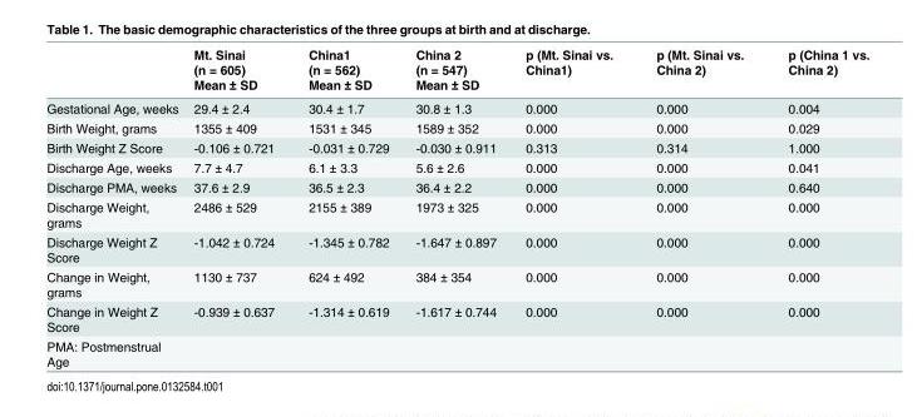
<table><thead><tr><td rowspan="2"></td><td rowspan="2">Mt. Sinai (n = 605) Mean ± SD</td><td rowspan="2">China1 (n = 562) Mean ± SD</td><td rowspan="2">China 2 (n = 547) Mean ± SD</td><td rowspan="2">p (Mt. Sinai vs. China1)</td><td rowspan="2">p (Mt. Sinai vs. China 2)</td><td rowspan="2">p (China 1 vs. China 2)</td></tr><tr></tr></thead><tbody><tr><td>Gestational Age, weeks</td><td>29.4 ± 2.4</td><td>30.4 ± 1.7</td><td>30.8 ± 1.3</td><td>0.000</td><td>0.000</td><td>0.004</td></tr><tr><td>Birth Weight, grams</td><td>1355 ± 409</td><td>1531 ± 345</td><td>1589 ± 352</td><td>0.000</td><td>0.000</td><td>0.029</td></tr><tr><td>Birth Weight Z Score</td><td>-0.106 ± 0.721</td><td>-0.031 ± 0.729</td><td>-0.030 ± 0.911</td><td>0.313</td><td>0.314</td><td>1.000</td></tr><tr><td>Discharge Age, weeks</td><td>7.7 ± 4.7</td><td>6.1 ± 3.3</td><td>5.6 ± 2.6</td><td>0.000</td><td>0.000</td><td>0.041</td></tr><tr><td>Discharge PMA, weeks</td><td>37.6 ± 2.9</td><td>36.5 ± 2.3</td><td>36.4 ± 2.2</td><td>0.000</td><td>0.000</td><td>0.640</td></tr><tr><td>Discharge Weight, grams</td><td>2486 ± 529</td><td>2155 ± 389</td><td>1973 ± 325</td><td>0.000</td><td>0.000</td><td>0.000</td></tr><tr><td>Discharge Weight Z Score</td><td>-1.042 ± 0.724</td><td>-1.345 ± 0.782</td><td>-1.647 ± 0.897</td><td>0.000</td><td>0.000</td><td>0.000</td></tr><tr><td>Change in Weight, grams</td><td>1130 ± 737</td><td>624 ± 492</td><td>384 ± 354</td><td>0.000</td><td>0.000</td><td>0.000</td></tr><tr><td>Change in Weight Z Score</td><td>-0.939 ± 0.637</td><td>-1.314 ± 0.619</td><td>-1.617 ± 0.744</td><td>0.000</td><td>0.000</td><td>0.000</td></tr><tr><td>PMA: Postmenstrual Age</td><td></td><td></td><td></td><td></td><td></td><td></td></tr></tbody></table>